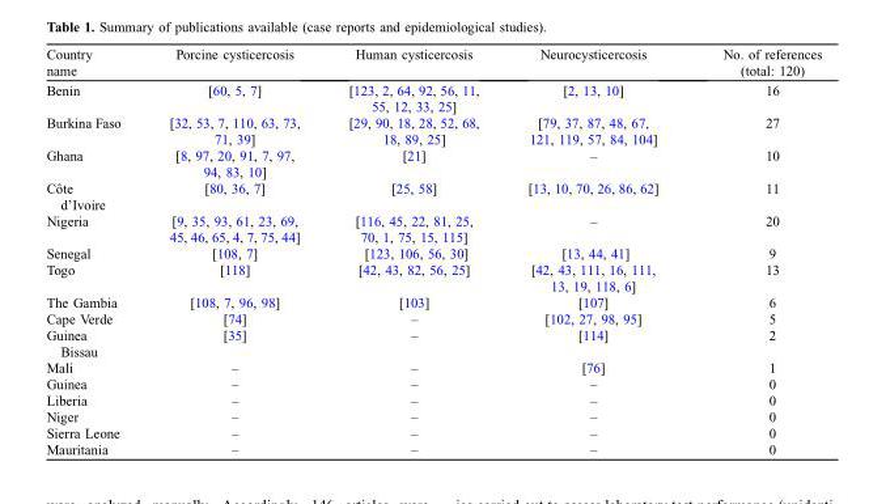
<table><thead><tr><td>Country name</td><td>Porcine cysticercosis</td><td>Human cysticercosis</td><td>Neurocysticercosis</td><td>No. of references (total: 120)</td></tr></thead><tbody><tr><td>Benin</td><td>[60, 5, 7]</td><td>[123, 2, 64, 92, 56, 11, 55, 12, 33, 25]</td><td>[2, 13, 10]</td><td>16</td></tr><tr><td>Burkina Faso</td><td>[32, 53, 7, 110, 63, 73, 71, 39]</td><td>[29, 90, 18, 28, 52, 68, 18, 89, 25]</td><td>[79, 37, 87, 48, 67, 121, 119, 57, 84, 104]</td><td>27</td></tr><tr><td>Ghana</td><td>[8, 97, 20, 91, 7, 97, 94, 83, 10]</td><td>[21]</td><td>–</td><td>10</td></tr><tr><td>Côte d’Ivoire</td><td>[80, 36, 7]</td><td>[25, 58]</td><td>[13, 10, 70, 26, 86, 62]</td><td>11</td></tr><tr><td>Nigeria</td><td>[9, 35, 93, 61, 23, 69, 45, 46, 65, 4, 7, 75, 44]</td><td>[116, 45, 22, 81, 25, 70, 1, 75, 15, 115]</td><td>–</td><td>20</td></tr><tr><td>Senegal</td><td>[108, 7]</td><td>[123, 106, 56, 30]</td><td>[13, 44, 41]</td><td>9</td></tr><tr><td>Togo</td><td>[118]</td><td>[42, 43, 82, 56, 25]</td><td>[42, 43, 111, 16, 111, 13, 19, 118, 6]</td><td>13</td></tr><tr><td>The Gambia</td><td>[108, 7, 96, 98]</td><td>[103]</td><td>[107]</td><td>6</td></tr><tr><td>Cape Verde</td><td>[74]</td><td>–</td><td>[102, 27, 98, 95]</td><td>5</td></tr><tr><td>Guinea Bissau</td><td>[35]</td><td>–</td><td>[114]</td><td>2</td></tr><tr><td>Mali</td><td>–</td><td>–</td><td>[76]</td><td>1</td></tr><tr><td>Guinea</td><td>–</td><td>–</td><td>–</td><td>0</td></tr><tr><td>Liberia</td><td>–</td><td>–</td><td>–</td><td>0</td></tr><tr><td>Niger</td><td>–</td><td>–</td><td>–</td><td>0</td></tr><tr><td>Sierra Leone</td><td>–</td><td>–</td><td>–</td><td>0</td></tr><tr><td>Mauritania</td><td>–</td><td>–</td><td>–</td><td>0</td></tr></tbody></table>